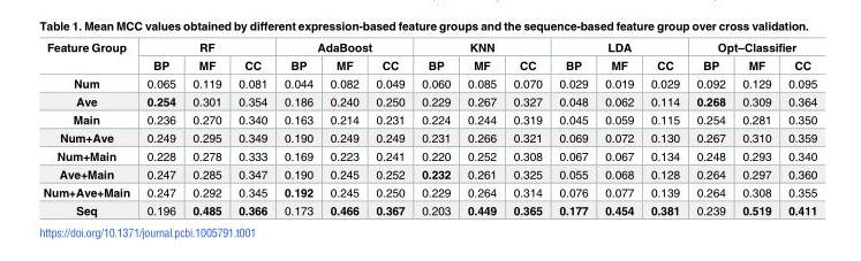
<table><thead><tr><td rowspan="2">Feature Group</td><td colspan="3">RF</td><td colspan="3">AdaBoost</td><td colspan="3">KNN</td><td colspan="3">LDA</td><td colspan="3">Opt–Classifier</td></tr><tr><td>BP</td><td>MF</td><td>CC</td><td>BP</td><td>MF</td><td>CC</td><td>BP</td><td>MF</td><td>CC</td><td>BP</td><td>MF</td><td>CC</td><td>BP</td><td>MF</td><td>CC</td></tr></thead><tbody><tr><td>Num</td><td>0.065</td><td>0.119</td><td>0.081</td><td>0.044</td><td>0.082</td><td>0.049</td><td>0.060</td><td>0.085</td><td>0.070</td><td>0.029</td><td>0.019</td><td>0.029</td><td>0.092</td><td>0.129</td><td>0.095</td></tr><tr><td>Ave</td><td>0.254</td><td>0.301</td><td>0.354</td><td>0.186</td><td>0.240</td><td>0.250</td><td>0.229</td><td>0.267</td><td>0.327</td><td>0.048</td><td>0.062</td><td>0.114</td><td>0.268</td><td>0.309</td><td>0.364</td></tr><tr><td>Main</td><td>0.236</td><td>0.270</td><td>0.340</td><td>0.163</td><td>0.214</td><td>0.231</td><td>0.224</td><td>0.244</td><td>0.319</td><td>0.045</td><td>0.059</td><td>0.115</td><td>0.254</td><td>0.281</td><td>0.350</td></tr><tr><td>Num+Ave</td><td>0.249</td><td>0.295</td><td>0.349</td><td>0.190</td><td>0.249</td><td>0.249</td><td>0.231</td><td>0.266</td><td>0.321</td><td>0.069</td><td>0.072</td><td>0.130</td><td>0.267</td><td>0.310</td><td>0.359</td></tr><tr><td>Num+Main</td><td>0.228</td><td>0.278</td><td>0.333</td><td>0.169</td><td>0.223</td><td>0.241</td><td>0.220</td><td>0.252</td><td>0.308</td><td>0.067</td><td>0.067</td><td>0.134</td><td>0.248</td><td>0.293</td><td>0.340</td></tr><tr><td>Ave+Main</td><td>0.247</td><td>0.285</td><td>0.347</td><td>0.190</td><td>0.245</td><td>0.252</td><td>0.232</td><td>0.261</td><td>0.325</td><td>0.055</td><td>0.068</td><td>0.128</td><td>0.264</td><td>0.297</td><td>0.360</td></tr><tr><td>Num+Ave+Main</td><td>0.247</td><td>0.292</td><td>0.345</td><td>0.192</td><td>0.245</td><td>0.250</td><td>0.229</td><td>0.264</td><td>0.314</td><td>0.076</td><td>0.077</td><td>0.139</td><td>0.264</td><td>0.308</td><td>0.355</td></tr><tr><td>Seq</td><td>0.196</td><td>0.485</td><td>0.366</td><td>0.173</td><td>0.466</td><td>0.367</td><td>0.203</td><td>0.449</td><td>0.365</td><td>0.177</td><td>0.454</td><td>0.381</td><td>0.239</td><td>0.519</td><td>0.411</td></tr></tbody></table>